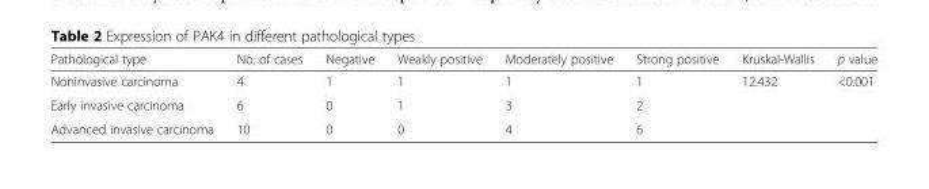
<table><thead><tr><td>Pathological type</td><td>No. of cases</td><td>Negative</td><td>Weakly positive</td><td>Moderately positive</td><td>Strong positive</td><td>Kruskal-Wallis</td><td>p value</td></tr></thead><tbody><tr><td>Noninvasive carcinoma</td><td>4</td><td>1</td><td>1</td><td>1</td><td>1</td><td rowspan="3">12.432</td><td rowspan="3">&lt;0.001</td></tr><tr><td>Early invasive carcinoma</td><td>6</td><td>0</td><td>1</td><td>3</td><td>2</td></tr><tr><td>Advanced invasive carcinoma</td><td>10</td><td>0</td><td>0</td><td>4</td><td>6</td></tr></tbody></table>